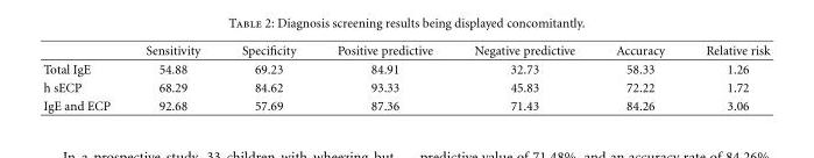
<table><thead><tr><td></td><td>Sensitivity</td><td>Specificity</td><td>Positive predictive</td><td>Negative predictive</td><td>Accuracy</td><td>Relative risk</td></tr></thead><tbody><tr><td>Total IgE</td><td>54.88</td><td>69.23</td><td>84.91</td><td>32.73</td><td>58.33</td><td>1.26</td></tr><tr><td>h sECP</td><td>68.29</td><td>84.62</td><td>93.33</td><td>45.83</td><td>72.22</td><td>1.72</td></tr><tr><td>IgE and ECP</td><td>92.68</td><td>57.69</td><td>87.36</td><td>71.43</td><td>84.26</td><td>3.06</td></tr></tbody></table>